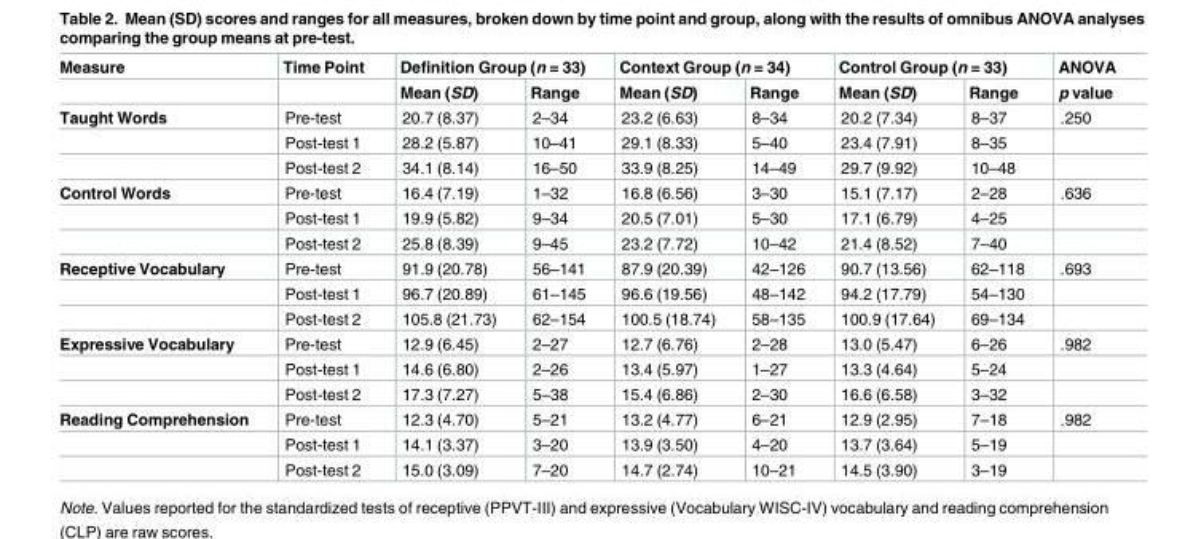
<table><thead><tr><td rowspan="2">Measure</td><td rowspan="2">Time Point</td><td colspan="2">Definition Group (n = 33)</td><td colspan="2">Context Group (n = 34)</td><td colspan="2">Control Group (n = 33)</td><td rowspan="2">ANOVA p value</td></tr><tr><td>Mean (SD)</td><td>Range</td><td>Mean (SD)</td><td>Range</td><td>Mean (SD)</td><td>Range</td></tr></thead><tbody><tr><td rowspan="3">Taught Words</td><td>Pre-test</td><td>20.7 (8.37)</td><td>2–34</td><td>23.2 (6.63)</td><td>8–34</td><td>20.2 (7.34)</td><td>8–37</td><td>.250</td></tr><tr><td>Post-test 1</td><td>28.2 (5.87)</td><td>10–41</td><td>29.1 (8.33)</td><td>5–40</td><td>23.4 (7.91)</td><td>8–35</td><td></td></tr><tr><td>Post-test 2</td><td>34.1 (8.14)</td><td>16–50</td><td>33.9 (8.25)</td><td>14–49</td><td>29.7 (9.92)</td><td>10–48</td><td></td></tr><tr><td rowspan="3">Control Words</td><td>Pre-test</td><td>16.4 (7.19)</td><td>1–32</td><td>16.8 (6.56)</td><td>3–30</td><td>15.1 (7.17)</td><td>2–28</td><td>.636</td></tr><tr><td>Post-test 1</td><td>19.9 (5.82)</td><td>9–34</td><td>20.5 (7.01)</td><td>5–30</td><td>17.1 (6.79)</td><td>4–25</td><td></td></tr><tr><td>Post-test 2</td><td>25.8 (8.39)</td><td>9–45</td><td>23.2 (7.72)</td><td>10–42</td><td>21.4 (8.52)</td><td>7–40</td><td></td></tr><tr><td rowspan="3">Receptive Vocabulary</td><td>Pre-test</td><td>91.9 (20.78)</td><td>56–141</td><td>87.9 (20.39)</td><td>42–126</td><td>90.7 (13.56)</td><td>62–118</td><td>.693</td></tr><tr><td>Post-test 1</td><td>96.7 (20.89)</td><td>61–145</td><td>96.6 (19.56)</td><td>48–142</td><td>94.2 (17.79)</td><td>54–130</td><td></td></tr><tr><td>Post-test 2</td><td>105.8 (21.73)</td><td>62–154</td><td>100.5 (18.74)</td><td>58–135</td><td>100.9 (17.64)</td><td>69–134</td><td></td></tr><tr><td rowspan="3">Expressive Vocabulary</td><td>Pre-test</td><td>12.9 (6.45)</td><td>2–27</td><td>12.7 (6.76)</td><td>2–28</td><td>13.0 (5.47)</td><td>6–26</td><td>.982</td></tr><tr><td>Post-test 1</td><td>14.6 (6.80)</td><td>2–26</td><td>13.4 (5.97)</td><td>1–27</td><td>13.3 (4.64)</td><td>5–24</td><td></td></tr><tr><td>Post-test 2</td><td>17.3 (7.27)</td><td>5–38</td><td>15.4 (6.86)</td><td>2–30</td><td>16.6 (6.58)</td><td>3–32</td><td></td></tr><tr><td rowspan="3">Reading Comprehension</td><td>Pre-test</td><td>12.3 (4.70)</td><td>5–21</td><td>13.2 (4.77)</td><td>6–21</td><td>12.9 (2.95)</td><td>7–18</td><td>.982</td></tr><tr><td>Post-test 1</td><td>14.1 (3.37)</td><td>3–20</td><td>13.9 (3.50)</td><td>4–20</td><td>13.7 (3.64)</td><td>5–19</td><td></td></tr><tr><td>Post-test 2</td><td>15.0 (3.09)</td><td>7–20</td><td>14.7 (2.74)</td><td>10–21</td><td>14.5 (3.90)</td><td>3–19</td><td></td></tr></tbody></table>